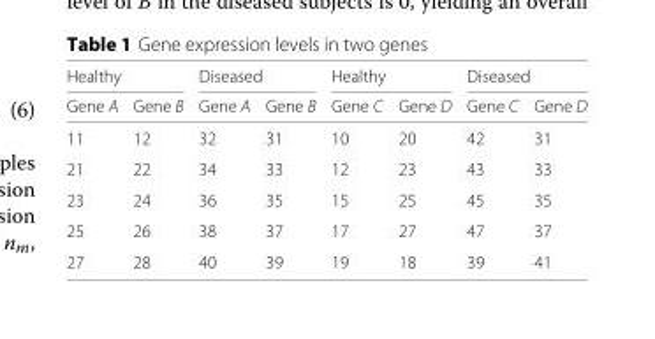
<table><thead><tr><td colspan="2">Healthy</td><td colspan="2">Diseased</td><td colspan="2">Healthy</td><td colspan="2">Diseased</td></tr><tr><td>Gene A</td><td>Gene B</td><td>Gene A</td><td>Gene B</td><td>Gene C</td><td>Gene D</td><td>Gene C</td><td>Gene D</td></tr></thead><tbody><tr><td>11</td><td>12</td><td>32</td><td>31</td><td>10</td><td>20</td><td>42</td><td>31</td></tr><tr><td>21</td><td>22</td><td>34</td><td>33</td><td>12</td><td>23</td><td>43</td><td>33</td></tr><tr><td>23</td><td>24</td><td>36</td><td>35</td><td>15</td><td>25</td><td>45</td><td>35</td></tr><tr><td>25</td><td>26</td><td>38</td><td>37</td><td>17</td><td>27</td><td>47</td><td>37</td></tr><tr><td>27</td><td>28</td><td>40</td><td>39</td><td>19</td><td>18</td><td>39</td><td>41</td></tr></tbody></table>